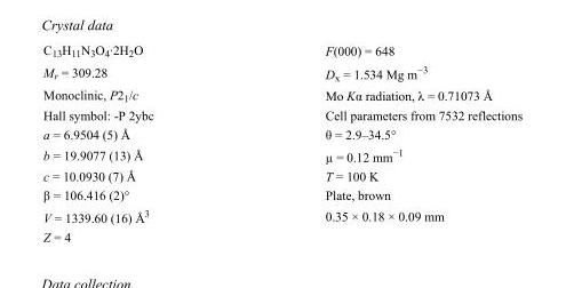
<table><tbody><tr><td>C<sub>13</sub>H<sub>11</sub>N<sub>3</sub>O<sub>4</sub>·2H<sub>2</sub>O</td><td>F(000) = 648</td></tr><tr><td>M<sub>r</sub> = 309.28</td><td>D<sub>x</sub> = 1.534 Mg m<sup>−3</sup></td></tr><tr><td>Monoclinic, P2<sub>1</sub>/c</td><td>Mo Kα radiation, λ = 0.71073 Å</td></tr><tr><td>Hall symbol: -P 2ybc</td><td>Cell parameters from 7532 reflections</td></tr><tr><td>a = 6.9504 (5) Å</td><td>θ = 2.9–34.5°</td></tr><tr><td>b = 19.9077 (13) Å</td><td>µ = 0.12 mm<sup>−1</sup></td></tr><tr><td>c = 10.0930 (7) Å</td><td>T = 100 K</td></tr><tr><td>β = 106.416 (2)°</td><td>Plate, brown</td></tr><tr><td>V = 1339.60 (16) Å<sup>3</sup></td><td>0.35 × 0.18 × 0.09 mm</td></tr><tr><td>Z = 4</td><td></td></tr></tbody></table>